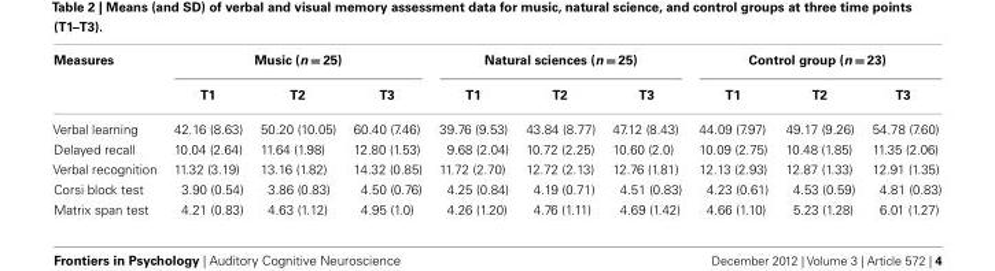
<table><thead><tr><td rowspan="2">Measures</td><td colspan="3">Music (n = 25)</td><td colspan="3">Natural sciences (n = 25)</td><td colspan="3">Control group (n = 23)</td></tr><tr><td>T1</td><td>T2</td><td>T3</td><td>T1</td><td>T2</td><td>T3</td><td>T1</td><td>T2</td><td>T3</td></tr></thead><tbody><tr><td>Verbal learning</td><td>42.16 (8.63)</td><td>50.20 (10.05)</td><td>60.40 (7.46)</td><td>39.76 (9.53)</td><td>43.84 (8.77)</td><td>47.12 (8.43)</td><td>44.09 (7.97)</td><td>49.17 (9.26)</td><td>54.78 (7.60)</td></tr><tr><td>Delayed recall</td><td>10.04 (2.64)</td><td>11.64 (1.98)</td><td>12.80 (1.53)</td><td>9.68 (2.04)</td><td>10.72 (2.25)</td><td>10.60 (2.0)</td><td>10.09 (2.75)</td><td>10.48 (1.85)</td><td>11.35 (2.06)</td></tr><tr><td>Verbal recognition</td><td>11.32 (3.19)</td><td>13.16 (1.82)</td><td>14.32 (0.85)</td><td>11.72 (2.70)</td><td>12.72 (2.13)</td><td>12.76 (1.81)</td><td>12.13 (2.93)</td><td>12.87 (1.33)</td><td>12.91 (1.35)</td></tr><tr><td>Corsi block test</td><td>3.90 (0.54)</td><td>3.86 (0.83)</td><td>4.50 (0.76)</td><td>4.25 (0.84)</td><td>4.19 (0.71)</td><td>4.51 (0.83)</td><td>4.23 (0.61)</td><td>4.53 (0.59)</td><td>4.81 (0.83)</td></tr><tr><td>Matrix span test</td><td>4.21 (0.83)</td><td>4.63 (1.12)</td><td>4.95 (1.0)</td><td>4.26 (1.20)</td><td>4.76 (1.11)</td><td>4.69 (1.42)</td><td>4.66 (1.10)</td><td>5.23 (1.28)</td><td>6.01 (1.27)</td></tr></tbody></table>